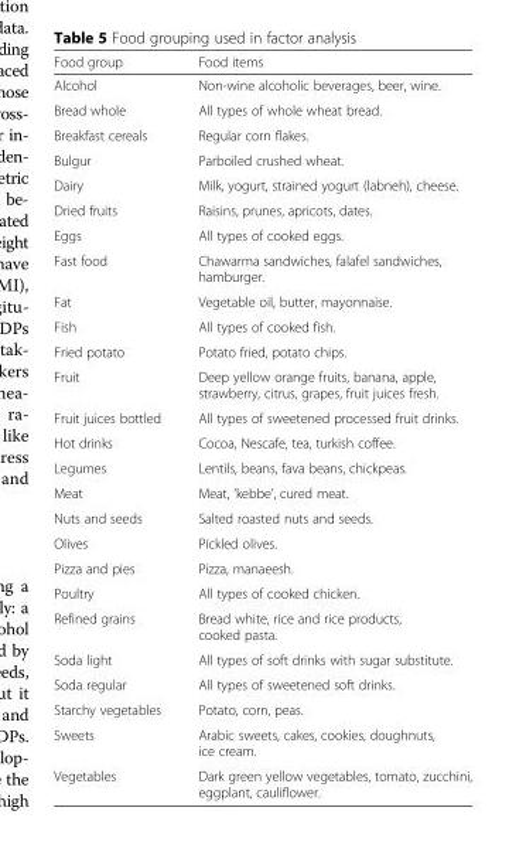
<table><thead><tr><td>Food group</td><td>Food items</td></tr></thead><tbody><tr><td>Alcohol</td><td>Non-wine alcoholic beverages, beer, wine.</td></tr><tr><td>Bread whole</td><td>All types of whole wheat bread.</td></tr><tr><td>Breakfast cereals</td><td>Regular corn flakes.</td></tr><tr><td>Bulgur</td><td>Parboiled crushed wheat.</td></tr><tr><td>Dairy</td><td>Milk, yogurt, strained yogurt (labneh), cheese.</td></tr><tr><td>Dried fruits</td><td>Raisins, prunes, apricots, dates.</td></tr><tr><td>Eggs</td><td>All types of cooked eggs.</td></tr><tr><td>Fast food</td><td>Chawarma sandwiches, falafel sandwiches, hamburger.</td></tr><tr><td>Fat</td><td>Vegetable oil, butter, mayonnaise.</td></tr><tr><td>Fish</td><td>All types of cooked fish.</td></tr><tr><td>Fried potato</td><td>Potato fried, potato chips.</td></tr><tr><td>Fruit</td><td>Deep yellow orange fruits, banana, apple, strawberry, citrus, grapes, fruit juices fresh.</td></tr><tr><td>Fruit juices bottled</td><td>All types of sweetened processed fruit drinks.</td></tr><tr><td>Hot drinks</td><td>Cocoa, Nescafe, tea, turkish coffee.</td></tr><tr><td>Legumes</td><td>Lentils, beans, fava beans, chickpeas.</td></tr><tr><td>Meat</td><td>Meat, ‘kebbe’, cured meat.</td></tr><tr><td>Nuts and seeds</td><td>Salted roasted nuts and seeds.</td></tr><tr><td>Olives</td><td>Pickled olives.</td></tr><tr><td>Pizza and pies</td><td>Pizza, manaeesh.</td></tr><tr><td>Poultry</td><td>All types of cooked chicken.</td></tr><tr><td>Refined grains</td><td>Bread white, rice and rice products, cooked pasta.</td></tr><tr><td>Soda light</td><td>All types of soft drinks with sugar substitute.</td></tr><tr><td>Soda regular</td><td>All types of sweetened soft drinks.</td></tr><tr><td>Starchy vegetables</td><td>Potato, corn, peas.</td></tr><tr><td>Sweets</td><td>Arabic sweets, cakes, cookies, doughnuts, ice cream.</td></tr><tr><td>Vegetables</td><td>Dark green yellow vegetables, tomato, zucchini, eggplant, cauliflower.</td></tr></tbody></table>